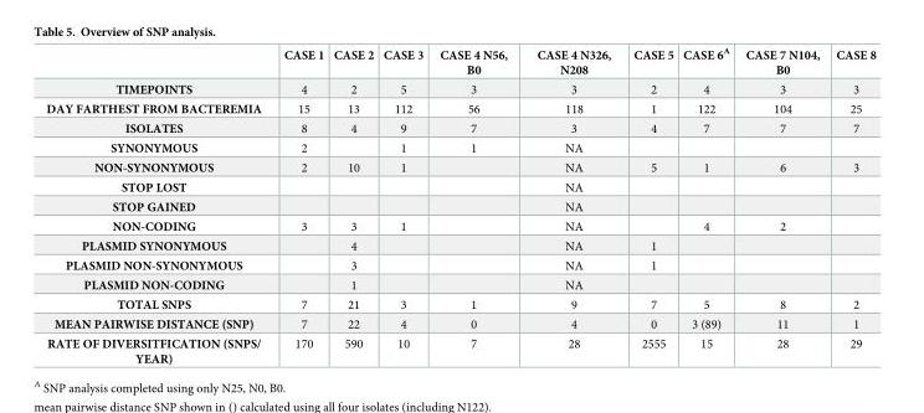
<table><thead><tr><td></td><td>CASE 1</td><td>CASE 2</td><td>CASE 3</td><td>CASE 4 N56, B0</td><td>CASE 4 N326, N208</td><td>CASE 5</td><td>CASE 6<sup>A</sup></td><td>CASE 7 N104, B0</td><td>CASE 8</td></tr></thead><tbody><tr><td>TIMEPOINTS</td><td>4</td><td>2</td><td>5</td><td>3</td><td>3</td><td>2</td><td>4</td><td>3</td><td>3</td></tr><tr><td>DAY FARTHEST FROM BACTEREMIA</td><td>15</td><td>13</td><td>112</td><td>56</td><td>118</td><td>1</td><td>122</td><td>104</td><td>25</td></tr><tr><td>ISOLATES</td><td>8</td><td>4</td><td>9</td><td>7</td><td>3</td><td>4</td><td>7</td><td>7</td><td>7</td></tr><tr><td>SYNONYMOUS</td><td>2</td><td></td><td>1</td><td>1</td><td>NA</td><td></td><td></td><td></td><td></td></tr><tr><td>NON-SYNONYMOUS</td><td>2</td><td>10</td><td>1</td><td></td><td>NA</td><td>5</td><td>1</td><td>6</td><td>3</td></tr><tr><td>STOP LOST</td><td></td><td></td><td></td><td></td><td>NA</td><td></td><td></td><td></td><td></td></tr><tr><td>STOP GAINED</td><td></td><td></td><td></td><td></td><td>NA</td><td></td><td></td><td></td><td></td></tr><tr><td>NON-CODING</td><td>3</td><td>3</td><td>1</td><td></td><td>NA</td><td></td><td>4</td><td>2</td><td></td></tr><tr><td>PLASMID SYNONYMOUS</td><td></td><td>4</td><td></td><td></td><td>NA</td><td>1</td><td></td><td></td><td></td></tr><tr><td>PLASMID NON-SYNONYMOUS</td><td></td><td>3</td><td></td><td></td><td>NA</td><td>1</td><td></td><td></td><td></td></tr><tr><td>PLASMID NON-CODING</td><td></td><td>1</td><td></td><td></td><td>NA</td><td></td><td></td><td></td><td></td></tr><tr><td>TOTAL SNPS</td><td>7</td><td>21</td><td>3</td><td>1</td><td>9</td><td>7</td><td>5</td><td>8</td><td>2</td></tr><tr><td>MEAN PAIRWISE DISTANCE (SNP)</td><td>7</td><td>22</td><td>4</td><td>0</td><td>4</td><td>0</td><td>3 (89)</td><td>11</td><td>1</td></tr><tr><td>RATE OF DIVERSITFICATION (SNPS/ YEAR)</td><td>170</td><td>590</td><td>10</td><td>7</td><td>28</td><td>2555</td><td>15</td><td>28</td><td>29</td></tr></tbody></table>